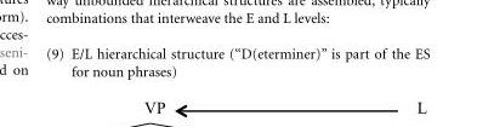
<table><tbody><tr><td>(9)</td><td>E/L hierarchical structure (“D(eterminer)” is part of the ES for noun phrases)</td></tr></tbody></table>